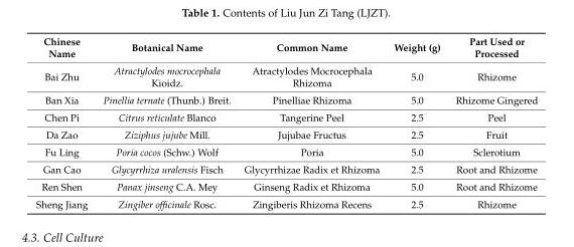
<table><thead><tr><td>Chinese Name</td><td>Botanical Name</td><td>Common Name</td><td>Weight (g)</td><td>Part Used or Processed</td></tr></thead><tbody><tr><td>Bai Zhu</td><td>Atractylodes mocrocephala Kioidz.</td><td>Atractylodes Mocrocephala Rhizoma</td><td>5.0</td><td>Rhizome</td></tr><tr><td>Ban Xia</td><td>Pinellia ternate (Thunb.) Breit.</td><td>Pinelliae Rhizoma</td><td>5.0</td><td>Rhizome Gingered</td></tr><tr><td>Chen Pi</td><td>Citrus reticulate Blanco</td><td>Tangerine Peel</td><td>2.5</td><td>Peel</td></tr><tr><td>Da Zao</td><td>Ziziphus jujube Mill.</td><td>Jujubae Fructus</td><td>2.5</td><td>Fruit</td></tr><tr><td>Fu Ling</td><td>Poria cocos (Schw.) Wolf</td><td>Poria</td><td>5.0</td><td>Sclerotium</td></tr><tr><td>Gan Cao</td><td>Glycyrrhiza uralensis Fisch</td><td>Glycyrrhizae Radix et Rhizoma</td><td>2.5</td><td>Root and Rhizome</td></tr><tr><td>Ren Shen</td><td>Panax jinseng C.A. Mey</td><td>Ginseng Radix et Rhizoma</td><td>5.0</td><td>Root and Rhizome</td></tr><tr><td>Sheng Jiang</td><td>Zingiber officinale Rosc.</td><td>Zingiberis Rhizoma Recens</td><td>2.5</td><td>Rhizome</td></tr></tbody></table>